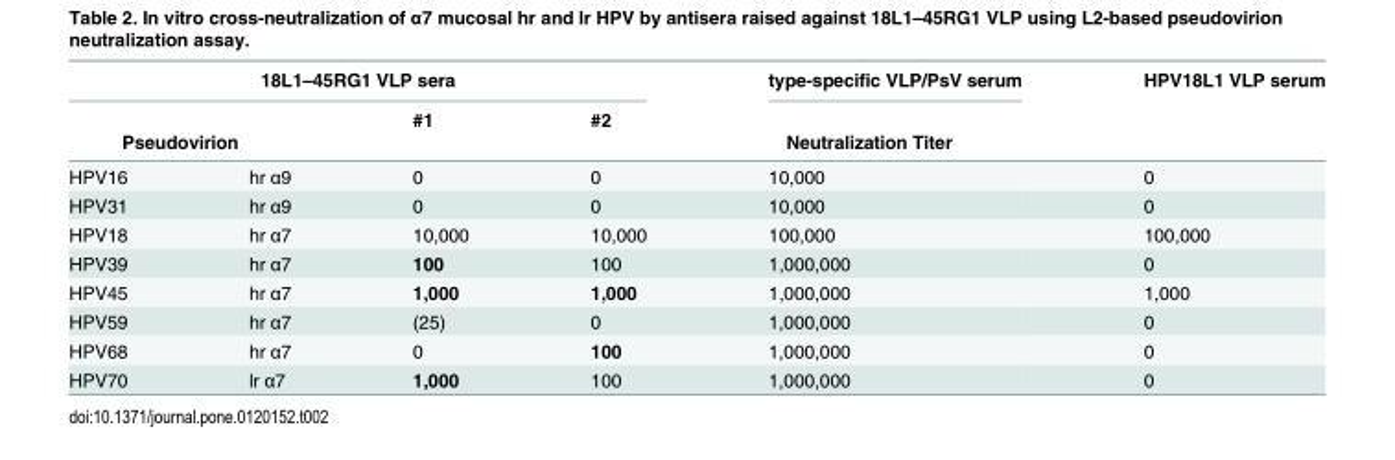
<table><thead><tr><td colspan="4">18L1–45RG1 VLP sera</td><td rowspan="2">type-specific VLP/PsV serum</td><td rowspan="2">HPV18L1 VLP serum</td></tr><tr><td></td><td></td><td>#1</td><td>#2</td></tr><tr><td colspan="2">Pseudovirion</td><td colspan="4">Neutralization Titer</td></tr></thead><tbody><tr><td>HPV16</td><td>hr α9</td><td>0</td><td>0</td><td>10,000</td><td>0</td></tr><tr><td>HPV31</td><td>hr α9</td><td>0</td><td>0</td><td>10,000</td><td>0</td></tr><tr><td>HPV18</td><td>hr α7</td><td>10,000</td><td>10,000</td><td>100,000</td><td>100,000</td></tr><tr><td>HPV39</td><td>hr α7</td><td>100</td><td>100</td><td>1,000,000</td><td>0</td></tr><tr><td>HPV45</td><td>hr α7</td><td>1,000</td><td>1,000</td><td>1,000,000</td><td>1,000</td></tr><tr><td>HPV59</td><td>hr α7</td><td>(25)</td><td>0</td><td>1,000,000</td><td>0</td></tr><tr><td>HPV68</td><td>hr α7</td><td>0</td><td>100</td><td>1,000,000</td><td>0</td></tr><tr><td>HPV70</td><td>lr α7</td><td>1,000</td><td>100</td><td>1,000,000</td><td>0</td></tr></tbody></table>